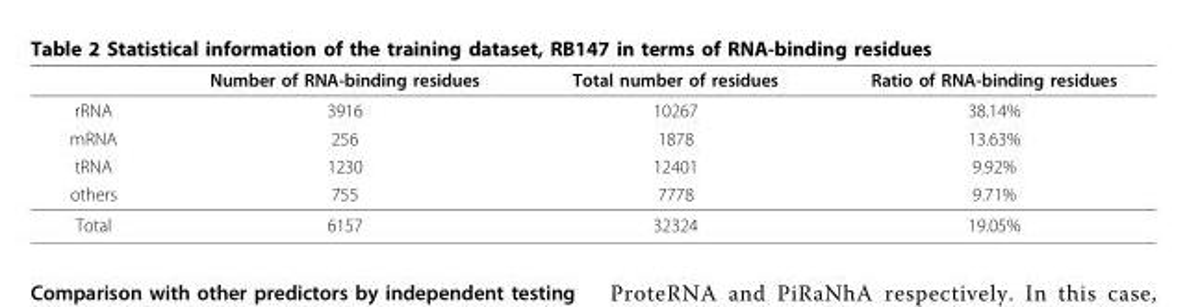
<table><thead><tr><td></td><td>Number of RNA-binding residues</td><td>Total number of residues</td><td>Ratio of RNA-binding residues</td></tr></thead><tbody><tr><td>rRNA</td><td>3916</td><td>10267</td><td>38.14%</td></tr><tr><td>mRNA</td><td>256</td><td>1878</td><td>13.63%</td></tr><tr><td>tRNA</td><td>1230</td><td>12401</td><td>9.92%</td></tr><tr><td>others</td><td>755</td><td>7778</td><td>9.71%</td></tr><tr><td>Total</td><td>6157</td><td>32324</td><td>19.05%</td></tr></tbody></table>